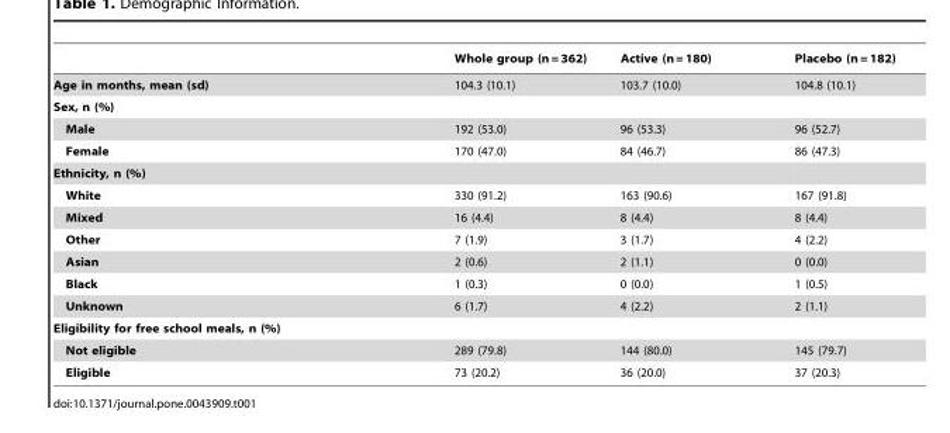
<table><thead><tr><td></td><td>Whole group (n = 362)</td><td>Active (n = 180)</td><td>Placebo (n = 182)</td></tr></thead><tbody><tr><td>Age in months, mean (sd)</td><td>104.3 (10.1)</td><td>103.7 (10.0)</td><td>104.8 (10.1)</td></tr><tr><td colspan="4">Sex, n (%)</td></tr><tr><td>Male</td><td>192 (53.0)</td><td>96 (53.3)</td><td>96 (52.7)</td></tr><tr><td>Female</td><td>170 (47.0)</td><td>84 (46.7)</td><td>86 (47.3)</td></tr><tr><td colspan="4">Ethnicity, n (%)</td></tr><tr><td>White</td><td>330 (91.2)</td><td>163 (90.6)</td><td>167 (91.8)</td></tr><tr><td>Mixed</td><td>16 (4.4)</td><td>8 (4.4)</td><td>8 (4.4)</td></tr><tr><td>Other</td><td>7 (1.9)</td><td>3 (1.7)</td><td>4 (2.2)</td></tr><tr><td>Asian</td><td>2 (0.6)</td><td>2 (1.1)</td><td>0 (0.0)</td></tr><tr><td>Black</td><td>1 (0.3)</td><td>0 (0.0)</td><td>1 (0.5)</td></tr><tr><td>Unknown</td><td>6 (1.7)</td><td>4 (2.2)</td><td>2 (1.1)</td></tr><tr><td colspan="4">Eligibility for free school meals, n (%)</td></tr><tr><td>Not eligible</td><td>289 (79.8)</td><td>144 (80.0)</td><td>145 (79.7)</td></tr><tr><td>Eligible</td><td>73 (20.2)</td><td>36 (20.0)</td><td>37 (20.3)</td></tr></tbody></table>